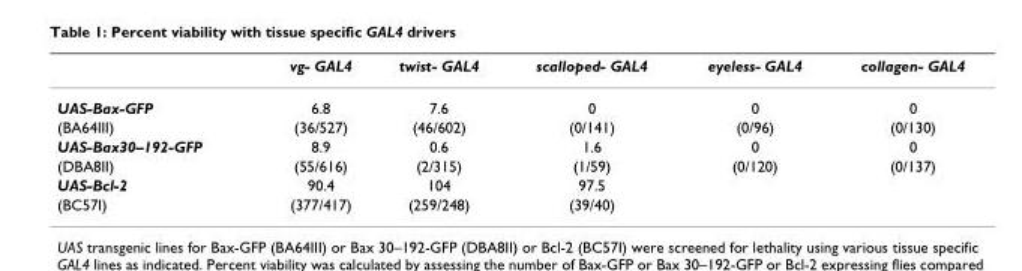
<table><thead><tr><td></td><td>vg- GAL4</td><td>twist- GAL4</td><td>scalloped- GAL4</td><td>eyeless- GAL4</td><td>collagen- GAL4</td></tr></thead><tbody><tr><td>UAS-Bax-GFP</td><td>6.8</td><td>7.6</td><td>0</td><td>0</td><td>0</td></tr><tr><td>(BA64III)</td><td>(36/527)</td><td>(46/602)</td><td>(0/141)</td><td>(0/96)</td><td>(0/130)</td></tr><tr><td>UAS-Bax30–192-GFP</td><td>8.9</td><td>0.6</td><td>1.6</td><td>0</td><td>0</td></tr><tr><td>(DBA8II)</td><td>(55/616)</td><td>(2/315)</td><td>(1/59)</td><td>(0/120)</td><td>(0/137)</td></tr><tr><td>UAS-Bcl-2</td><td>90.4</td><td>104</td><td>97.5</td><td></td><td></td></tr><tr><td>(BC57I)</td><td>(377/417)</td><td>(259/248)</td><td>(39/40)</td><td></td><td></td></tr></tbody></table>